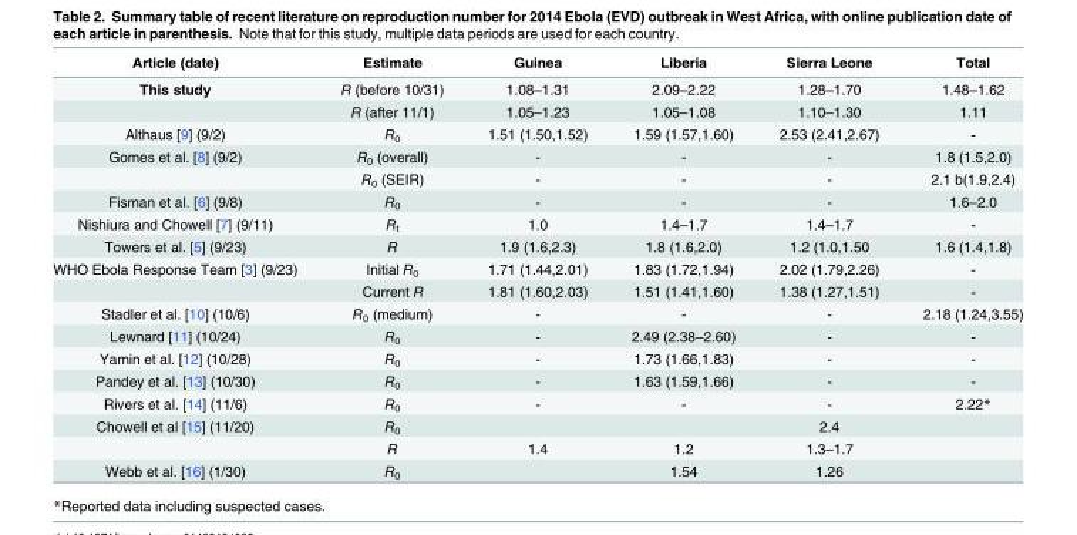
<table><thead><tr><td>Article (date)</td><td>Estimate</td><td>Guinea</td><td>Liberia</td><td>Sierra Leone</td><td>Total</td></tr></thead><tbody><tr><td rowspan="2">This study</td><td>R (before 10/31)</td><td>1.08–1.31</td><td>2.09–2.22</td><td>1.28–1.70</td><td>1.48–1.62</td></tr><tr><td>R (after 11/1)</td><td>1.05–1.23</td><td>1.05–1.08</td><td>1.10–1.30</td><td>1.11</td></tr><tr><td>Althaus [9] (9/2)</td><td>R<sub>0</sub></td><td>1.51 (1.50,1.52)</td><td>1.59 (1.57,1.60)</td><td>2.53 (2.41,2.67)</td><td>-</td></tr><tr><td rowspan="2">Gomes et al. [8] (9/2)</td><td>R<sub>0</sub> (overall)</td><td>-</td><td>-</td><td>-</td><td>1.8 (1.5,2.0)</td></tr><tr><td>R<sub>0</sub> (SEIR)</td><td>-</td><td>-</td><td>-</td><td>2.1 b(1.9,2.4)</td></tr><tr><td>Fisman et al. [6] (9/8)</td><td>R<sub>0</sub></td><td>-</td><td>-</td><td>-</td><td>1.6–2.0</td></tr><tr><td>Nishiura and Chowell [7] (9/11)</td><td>R<sub>t</sub></td><td>1.0</td><td>1.4–1.7</td><td>1.4–1.7</td><td>-</td></tr><tr><td>Towers et al. [5] (9/23)</td><td>R</td><td>1.9 (1.6,2.3)</td><td>1.8 (1.6,2.0)</td><td>1.2 (1.0,1.50</td><td>1.6 (1.4,1.8)</td></tr><tr><td rowspan="2">WHO Ebola Response Team [3] (9/23)</td><td>Initial R<sub>0</sub></td><td>1.71 (1.44,2.01)</td><td>1.83 (1.72,1.94)</td><td>2.02 (1.79,2.26)</td><td>-</td></tr><tr><td>Current R</td><td>1.81 (1.60,2.03)</td><td>1.51 (1.41,1.60)</td><td>1.38 (1.27,1.51)</td><td>-</td></tr><tr><td>Stadler et al. [10] (10/6)</td><td>R<sub>0</sub> (medium)</td><td>-</td><td>-</td><td>-</td><td>2.18 (1.24,3.55)</td></tr><tr><td>Lewnard [11] (10/24)</td><td>R<sub>0</sub></td><td>-</td><td>2.49 (2.38–2.60)</td><td>-</td><td>-</td></tr><tr><td>Yamin et al. [12] (10/28)</td><td>R<sub>0</sub></td><td>-</td><td>1.73 (1.66,1.83)</td><td>-</td><td>-</td></tr><tr><td>Pandey et al. [13] (10/30)</td><td>R<sub>0</sub></td><td>-</td><td>1.63 (1.59,1.66)</td><td>-</td><td>-</td></tr><tr><td>Rivers et al. [14] (11/6)</td><td>R<sub>0</sub></td><td>-</td><td>-</td><td>-</td><td>2.22*</td></tr><tr><td rowspan="2">Chowell et al [15] (11/20)</td><td>R<sub>0</sub></td><td></td><td></td><td>2.4</td><td></td></tr><tr><td>R</td><td>1.4</td><td>1.2</td><td>1.3–1.7</td><td></td></tr><tr><td>Webb et al. [16] (1/30)</td><td>R<sub>0</sub></td><td></td><td>1.54</td><td>1.26</td><td></td></tr></tbody></table>